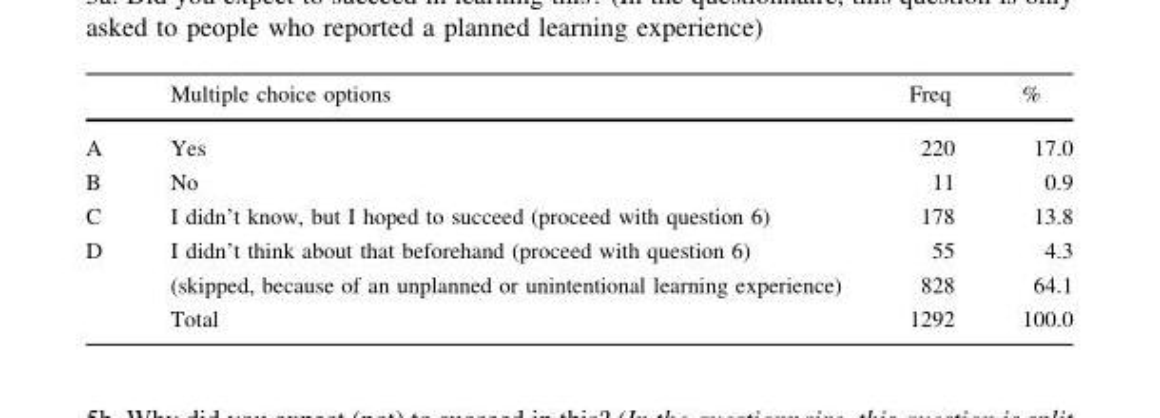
<table><thead><tr><td></td><td>Multiple choice options</td><td>Freq</td><td>%</td></tr></thead><tbody><tr><td>A</td><td>Yes</td><td>220</td><td>17.0</td></tr><tr><td>B</td><td>No</td><td>11</td><td>0.9</td></tr><tr><td>C</td><td>I didn’t know, but I hoped to succeed (proceed with question 6)</td><td>178</td><td>13.8</td></tr><tr><td rowspan="3">D</td><td>I didn’t think about that beforehand (proceed with question 6)</td><td>55</td><td>4.3</td></tr><tr><td>(skipped, because of an unplanned or unintentional learning experience)</td><td>828</td><td>64.1</td></tr><tr><td>Total</td><td>1292</td><td>100.0</td></tr></tbody></table>